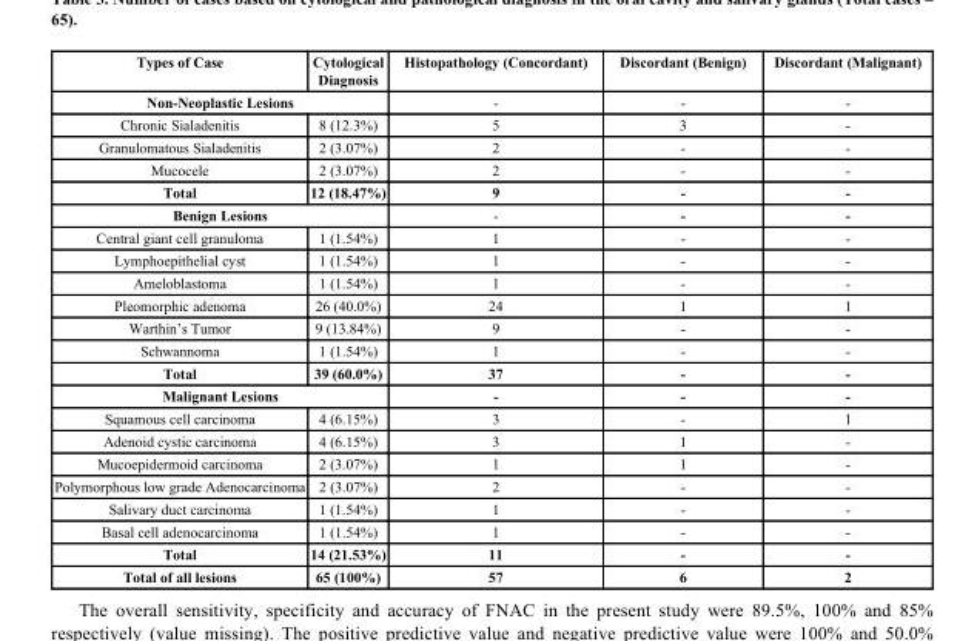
<table><thead><tr><td>Types of Case</td><td>Cytological Diagnosis</td><td>Histopathology (Concordant)</td><td>Discordant (Benign)</td><td>Discordant (Malignant)</td></tr></thead><tbody><tr><td colspan="2">Non-Neoplastic Lesions</td><td>-</td><td>-</td><td>-</td></tr><tr><td>Chronic Sialadenitis</td><td>8 (12.3%)</td><td>5</td><td>3</td><td>-</td></tr><tr><td>Granulomatous Sialadenitis</td><td>2 (3.07%)</td><td>2</td><td>-</td><td>-</td></tr><tr><td>Mucocele</td><td>2 (3.07%)</td><td>2</td><td>-</td><td>-</td></tr><tr><td>Total</td><td>12 (18.47%)</td><td>9</td><td>-</td><td>-</td></tr><tr><td colspan="2">Benign Lesions</td><td>-</td><td>-</td><td>-</td></tr><tr><td>Central giant cell granuloma</td><td>1 (1.54%)</td><td>1</td><td>-</td><td>-</td></tr><tr><td>Lymphoepithelial cyst</td><td>1 (1.54%)</td><td>1</td><td>-</td><td>-</td></tr><tr><td>Ameloblastoma</td><td>1 (1.54%)</td><td>1</td><td>-</td><td>-</td></tr><tr><td>Pleomorphic adenoma</td><td>26 (40.0%)</td><td>24</td><td>1</td><td>1</td></tr><tr><td>Warthin’s Tumor</td><td>9 (13.84%)</td><td>9</td><td>-</td><td>-</td></tr><tr><td>Schwannoma</td><td>1 (1.54%)</td><td>1</td><td>-</td><td>-</td></tr><tr><td>Total</td><td>39 (60.0%)</td><td>37</td><td>-</td><td>-</td></tr><tr><td colspan="2">Malignant Lesions</td><td>-</td><td>-</td><td>-</td></tr><tr><td>Squamous cell carcinoma</td><td>4 (6.15%)</td><td>3</td><td>-</td><td>1</td></tr><tr><td>Adenoid cystic carcinoma</td><td>4 (6.15%)</td><td>3</td><td>1</td><td>-</td></tr><tr><td>Mucoepidermoid carcinoma</td><td>2 (3.07%)</td><td>1</td><td>1</td><td>-</td></tr><tr><td>Polymorphous low grade Adenocarcinoma</td><td>2 (3.07%)</td><td>2</td><td>-</td><td>-</td></tr><tr><td>Salivary duct carcinoma</td><td>1 (1.54%)</td><td>1</td><td>-</td><td>-</td></tr><tr><td>Basal cell adenocarcinoma</td><td>1 (1.54%)</td><td>1</td><td>-</td><td>-</td></tr><tr><td>Total</td><td>14 (21.53%)</td><td>11</td><td>-</td><td>-</td></tr><tr><td>Total of all lesions</td><td>65 (100%)</td><td>57</td><td>6</td><td>2</td></tr></tbody></table>